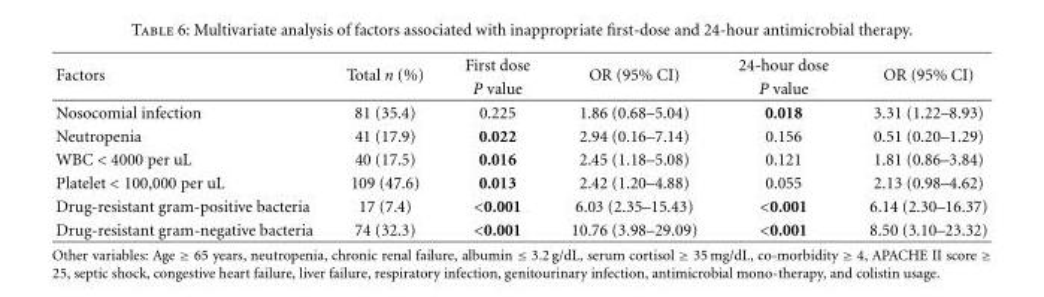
<table><thead><tr><td rowspan="2">Factors</td><td rowspan="2">Total n (%)</td><td rowspan="2">First dose P value</td><td rowspan="2">OR (95% CI)</td><td rowspan="2">24-hour dose P value</td><td rowspan="2">OR (95% CI)</td></tr><tr></tr></thead><tbody><tr><td>Nosocomial infection</td><td>81 (35.4)</td><td>0.225</td><td>1.86 (0.68–5.04)</td><td>0.018</td><td>3.31 (1.22–8.93)</td></tr><tr><td>Neutropenia</td><td>41 (17.9)</td><td>0.022</td><td>2.94 (0.16–7.14)</td><td>0.156</td><td>0.51 (0.20–1.29)</td></tr><tr><td>WBC &lt; 4000 per uL</td><td>40 (17.5)</td><td>0.016</td><td>2.45 (1.18–5.08)</td><td>0.121</td><td>1.81 (0.86–3.84)</td></tr><tr><td>Platelet &lt; 100,000 per uL</td><td>109 (47.6)</td><td>0.013</td><td>2.42 (1.20–4.88)</td><td>0.055</td><td>2.13 (0.98–4.62)</td></tr><tr><td>Drug-resistant gram-positive bacteria</td><td>17 (7.4)</td><td>&lt;0.001</td><td>6.03 (2.35–15.43)</td><td>&lt;0.001</td><td>6.14 (2.30–16.37)</td></tr><tr><td>Drug-resistant gram-negative bacteria</td><td>74 (32.3)</td><td>&lt;0.001</td><td>10.76 (3.98–29.09)</td><td>&lt;0.001</td><td>8.50 (3.10–23.32)</td></tr></tbody></table>